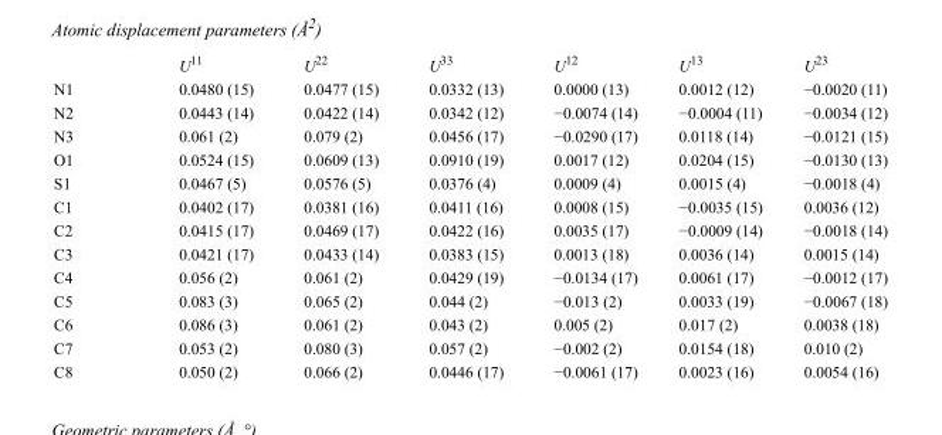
<table><thead><tr><td></td><td>U<sup>11</sup></td><td>U<sup>22</sup></td><td>U<sup>33</sup></td><td>U<sup>12</sup></td><td>U<sup>13</sup></td><td>U<sup>23</sup></td></tr></thead><tbody><tr><td>N1</td><td>0.0480 (15)</td><td>0.0477 (15)</td><td>0.0332 (13)</td><td>0.0000 (13)</td><td>0.0012 (12)</td><td>−0.0020 (11)</td></tr><tr><td>N2</td><td>0.0443 (14)</td><td>0.0422 (14)</td><td>0.0342 (12)</td><td>−0.0074 (14)</td><td>−0.0004 (11)</td><td>−0.0034 (12)</td></tr><tr><td>N3</td><td>0.061 (2)</td><td>0.079 (2)</td><td>0.0456 (17)</td><td>−0.0290 (17)</td><td>0.0118 (14)</td><td>−0.0121 (15)</td></tr><tr><td>O1</td><td>0.0524 (15)</td><td>0.0609 (13)</td><td>0.0910 (19)</td><td>0.0017 (12)</td><td>0.0204 (15)</td><td>−0.0130 (13)</td></tr><tr><td>S1</td><td>0.0467 (5)</td><td>0.0576 (5)</td><td>0.0376 (4)</td><td>0.0009 (4)</td><td>0.0015 (4)</td><td>−0.0018 (4)</td></tr><tr><td>C1</td><td>0.0402 (17)</td><td>0.0381 (16)</td><td>0.0411 (16)</td><td>0.0008 (15)</td><td>−0.0035 (15)</td><td>0.0036 (12)</td></tr><tr><td>C2</td><td>0.0415 (17)</td><td>0.0469 (17)</td><td>0.0422 (16)</td><td>0.0035 (17)</td><td>−0.0009 (14)</td><td>−0.0018 (14)</td></tr><tr><td>C3</td><td>0.0421 (17)</td><td>0.0433 (14)</td><td>0.0383 (15)</td><td>0.0013 (18)</td><td>0.0036 (14)</td><td>0.0015 (14)</td></tr><tr><td>C4</td><td>0.056 (2)</td><td>0.061 (2)</td><td>0.0429 (19)</td><td>−0.0134 (17)</td><td>0.0061 (17)</td><td>−0.0012 (17)</td></tr><tr><td>C5</td><td>0.083 (3)</td><td>0.065 (2)</td><td>0.044 (2)</td><td>−0.013 (2)</td><td>0.0033 (19)</td><td>−0.0067 (18)</td></tr><tr><td>C6</td><td>0.086 (3)</td><td>0.061 (2)</td><td>0.043 (2)</td><td>0.005 (2)</td><td>0.017 (2)</td><td>0.0038 (18)</td></tr><tr><td>C7</td><td>0.053 (2)</td><td>0.080 (3)</td><td>0.057 (2)</td><td>−0.002 (2)</td><td>0.0154 (18)</td><td>0.010 (2)</td></tr><tr><td>C8</td><td>0.050 (2)</td><td>0.066 (2)</td><td>0.0446 (17)</td><td>−0.0061 (17)</td><td>0.0023 (16)</td><td>0.0054 (16)</td></tr></tbody></table>